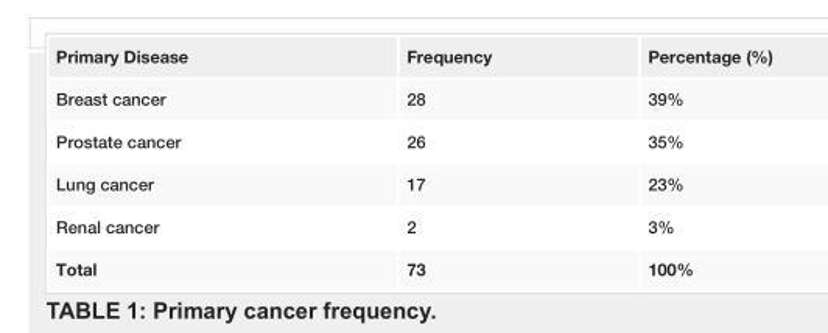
<table><tbody><tr><td>Primary Disease</td><td>Frequency</td><td>Percentage (%)</td></tr><tr><td>Breast cancer</td><td>28</td><td>39%</td></tr><tr><td>Prostate cancer</td><td>26</td><td>35%</td></tr><tr><td>Lung cancer</td><td>17</td><td>23%</td></tr><tr><td>Renal cancer</td><td>2</td><td>3%</td></tr><tr><td>Total</td><td>73</td><td>100%</td></tr></tbody></table>